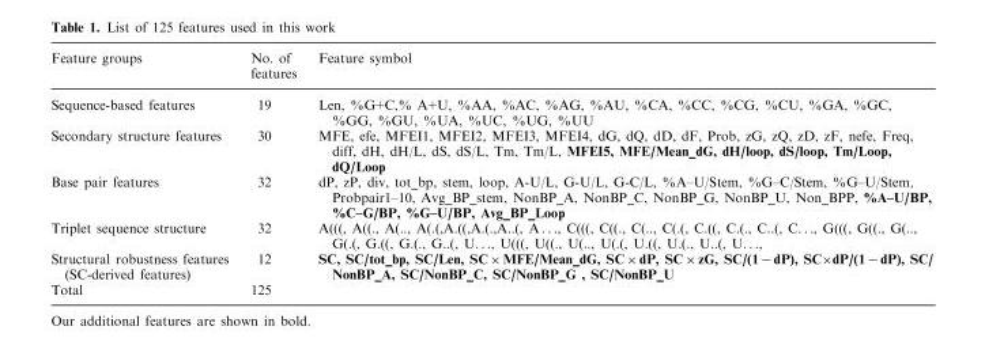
<table><thead><tr><td>Feature groups</td><td>No. of features</td><td>Feature symbol</td></tr></thead><tbody><tr><td>Sequence-based features</td><td>19</td><td>Len, %G+C,% A+U, %AA, %AC, %AG, %AU, %CA, %CC, %CG, %CU, %GA, %GC, %GG, %GU, %UA, %UC, %UG, %UU</td></tr><tr><td>Secondary structure features</td><td>30</td><td>MFE, efe, MFEI1, MFEI2, MFEI3, MFEI4, dG, dQ, dD, dF, Prob, zG, zQ, zD, zF, nefe, Freq, diff, dH, dH/L, dS, dS/L, Tm, Tm/L, MFEI5, MFE/Mean_dG, dH/loop, dS/loop, Tm/Loop, dQ/Loop</td></tr><tr><td>Base pair features</td><td>32</td><td>dP, zP, div, tot_bp, stem, loop, A-U/L, G-U/L, G-C/L, %A–U/Stem, %G–C/Stem, %G–U/Stem, Probpair1–10, Avg_BP_stem, NonBP_A, NonBP_C, NonBP_G, NonBP_U, Non_BPP, %A–U/BP, %C–G/BP, %G–U/BP, Avg_BP_Loop</td></tr><tr><td>Triplet sequence structure</td><td>32</td><td>A(((, A((., A(.., A(.(,A.((,A.(.,A..(, A . . ., C(((, C((., C(.., C(.(, C.((, C.(., C..(, C. . ., G(((, G((., G(.., G(.(, G.((, G.(., G..(, U. . ., U(((, U((., U(.., U(.(, U.((, U.(., U..(, U. . .,</td></tr><tr><td>Structural robustness features (SC-derived features)</td><td>12</td><td>SC, SC/tot_bp, SC/Len, SC × MFE/Mean_dG, SC × dP, SC × zG, SC/(1 − dP), SC×dP/(1 − dP), SC/ NonBP_A, SC/NonBP_C, SC/NonBP_G , SC/NonBP_U</td></tr><tr><td>Total</td><td>125</td><td></td></tr></tbody></table>